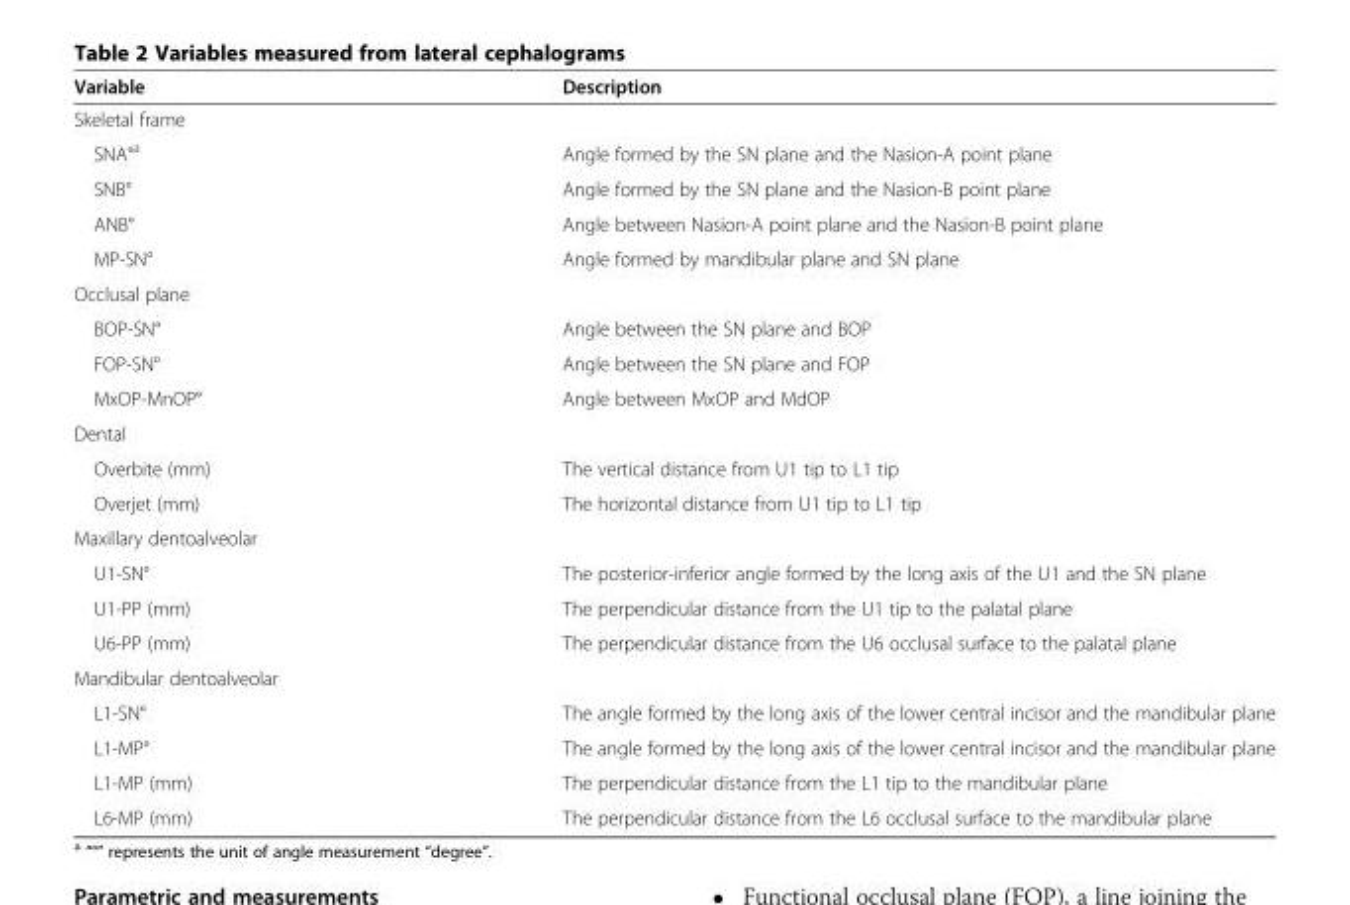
<table><thead><tr><td>Variable</td><td>Description</td></tr></thead><tbody><tr><td colspan="2">Skeletal frame</td></tr><tr><td>SNA°<sup>a</sup></td><td>Angle formed by the SN plane and the Nasion-A point plane</td></tr><tr><td>SNB°</td><td>Angle formed by the SN plane and the Nasion-B point plane</td></tr><tr><td>ANB°</td><td>Angle between Nasion-A point plane and the Nasion-B point plane</td></tr><tr><td>MP-SN°</td><td>Angle formed by mandibular plane and SN plane</td></tr><tr><td colspan="2">Occlusal plane</td></tr><tr><td>BOP-SN°</td><td>Angle between the SN plane and BOP</td></tr><tr><td>FOP-SN°</td><td>Angle between the SN plane and FOP</td></tr><tr><td>MxOP-MnOP°</td><td>Angle between MxOP and MdOP</td></tr><tr><td colspan="2">Dental</td></tr><tr><td>Overbite (mm)</td><td>The vertical distance from U1 tip to L1 tip</td></tr><tr><td>Overjet (mm)</td><td>The horizontal distance from U1 tip to L1 tip</td></tr><tr><td colspan="2">Maxillary dentoalveolar</td></tr><tr><td>U1-SN°</td><td>The posterior-inferior angle formed by the long axis of the U1 and the SN plane</td></tr><tr><td>U1-PP (mm)</td><td>The perpendicular distance from the U1 tip to the palatal plane</td></tr><tr><td>U6-PP (mm)</td><td>The perpendicular distance from the U6 occlusal surface to the palatal plane</td></tr><tr><td colspan="2">Mandibular dentoalveolar</td></tr><tr><td>L1-SN°</td><td>The angle formed by the long axis of the lower central incisor and the mandibular plane</td></tr><tr><td>L1-MP°</td><td>The angle formed by the long axis of the lower central incisor and the mandibular plane</td></tr><tr><td>L1-MP (mm)</td><td>The perpendicular distance from the L1 tip to the mandibular plane</td></tr><tr><td>L6-MP (mm)</td><td>The perpendicular distance from the L6 occlusal surface to the mandibular plane</td></tr></tbody></table>